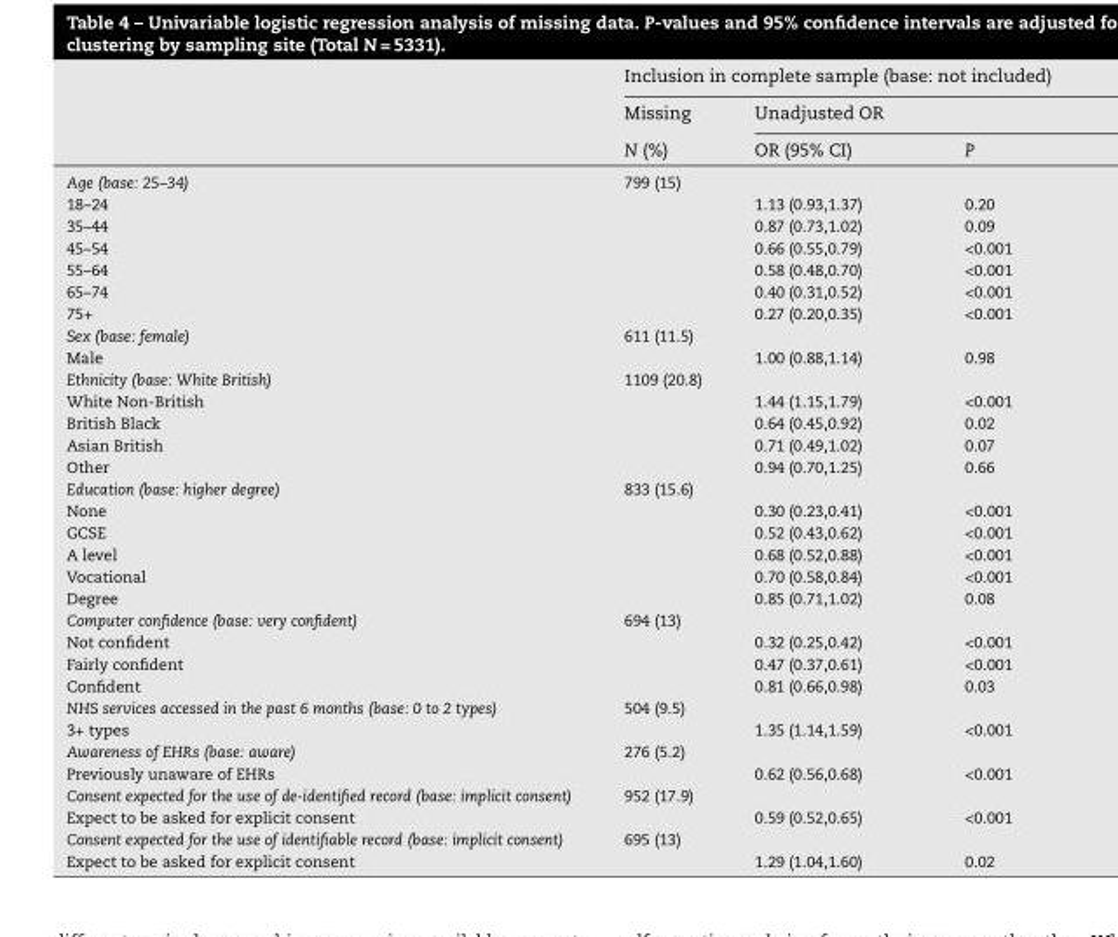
<table><thead><tr><td rowspan="3"></td><td colspan="3">Inclusion in complete sample (base: not included)</td></tr><tr><td rowspan="2">Missing N (%)</td><td colspan="2">Unadjusted OR</td></tr><tr><td>OR (95% CI)</td><td>P</td></tr></thead><tbody><tr><td>Age (base: 25–34)</td><td>799 (15)</td><td></td><td></td></tr><tr><td>18–24</td><td></td><td>1.13 (0.93,1.37)</td><td>0.20</td></tr><tr><td>35–44</td><td></td><td>0.87 (0.73,1.02)</td><td>0.09</td></tr><tr><td>45–54</td><td></td><td>0.66 (0.55,0.79)</td><td>&lt;0.001</td></tr><tr><td>55–64</td><td></td><td>0.58 (0.48,0.70)</td><td>&lt;0.001</td></tr><tr><td>65–74</td><td></td><td>0.40 (0.31,0.52)</td><td>&lt;0.001</td></tr><tr><td>75+</td><td></td><td>0.27 (0.20,0.35)</td><td>&lt;0.001</td></tr><tr><td>Sex (base: female)</td><td>611 (11.5)</td><td></td><td></td></tr><tr><td>Male</td><td></td><td>1.00 (0.88,1.14)</td><td>0.98</td></tr><tr><td>Ethnicity (base: White British)</td><td>1109 (20.8)</td><td></td><td></td></tr><tr><td>White Non-British</td><td></td><td>1.44 (1.15,1.79)</td><td>&lt;0.001</td></tr><tr><td>British Black</td><td></td><td>0.64 (0.45,0.92)</td><td>0.02</td></tr><tr><td>Asian British</td><td></td><td>0.71 (0.49,1.02)</td><td>0.07</td></tr><tr><td>Other</td><td></td><td>0.94 (0.70,1.25)</td><td>0.66</td></tr><tr><td>Education (base: higher degree)</td><td>833 (15.6)</td><td></td><td></td></tr><tr><td>None</td><td></td><td>0.30 (0.23,0.41)</td><td>&lt;0.001</td></tr><tr><td>GCSE</td><td></td><td>0.52 (0.43,0.62)</td><td>&lt;0.001</td></tr><tr><td>A level</td><td></td><td>0.68 (0.52,0.88)</td><td>&lt;0.001</td></tr><tr><td>Vocational</td><td></td><td>0.70 (0.58,0.84)</td><td>&lt;0.001</td></tr><tr><td>Degree</td><td></td><td>0.85 (0.71,1.02)</td><td>0.08</td></tr><tr><td>Computer confidence (base: very confident)</td><td>694 (13)</td><td></td><td></td></tr><tr><td>Not confident</td><td></td><td>0.32 (0.25,0.42)</td><td>&lt;0.001</td></tr><tr><td>Fairly confident</td><td></td><td>0.47 (0.37,0.61)</td><td>&lt;0.001</td></tr><tr><td>Confident</td><td></td><td>0.81 (0.66,0.98)</td><td>0.03</td></tr><tr><td>NHS services accessed in the past 6 months (base: 0 to 2 types)</td><td>504 (9.5)</td><td></td><td></td></tr><tr><td>3+ types</td><td></td><td>1.35 (1.14,1.59)</td><td>&lt;0.001</td></tr><tr><td>Awareness of EHRs (base: aware)</td><td>276 (5.2)</td><td></td><td></td></tr><tr><td>Previously unaware of EHRs</td><td></td><td>0.62 (0.56,0.68)</td><td>&lt;0.001</td></tr><tr><td>Consent expected for the use of de-identified record (base: implicit consent)</td><td>952 (17.9)</td><td></td><td></td></tr><tr><td>Expect to be asked for explicit consent</td><td></td><td>0.59 (0.52,0.65)</td><td>&lt;0.001</td></tr><tr><td>Consent expected for the use of identifiable record (base: implicit consent)</td><td>695 (13)</td><td></td><td></td></tr><tr><td>Expect to be asked for explicit consent</td><td></td><td>1.29 (1.04,1.60)</td><td>0.02</td></tr></tbody></table>